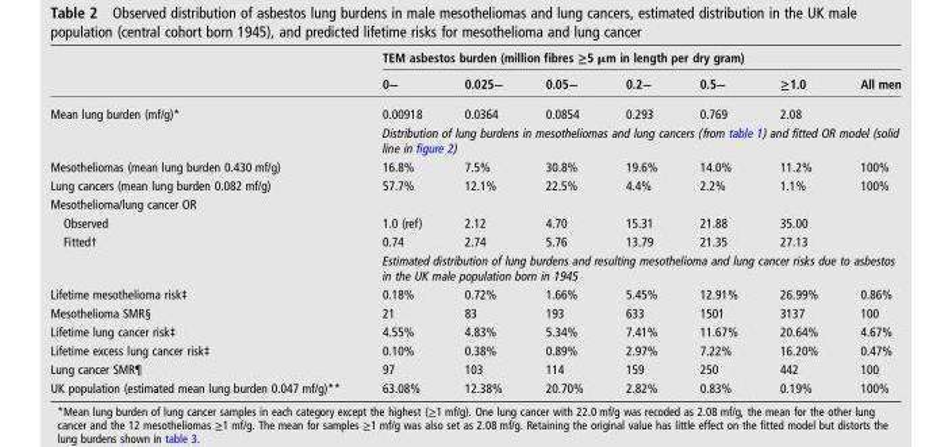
<table><thead><tr><td rowspan="2"></td><td colspan="7">TEM asbestos burden (million fibres ≥5 µm in length per dry gram)</td></tr><tr><td>0−</td><td>0.025−</td><td>0.05−</td><td>0.2−</td><td>0.5−</td><td>≥1.0</td><td>All men</td></tr></thead><tbody><tr><td rowspan="2">Mean lung burden (mf/g)*</td><td>0.00918</td><td>0.0364</td><td>0.0854</td><td>0.293</td><td>0.769</td><td>2.08</td><td></td></tr><tr><td colspan="7">Distribution of lung burdens in mesotheliomas and lung cancers (from table 1) and fitted OR model (solid line in figure 2)</td></tr><tr><td>Mesotheliomas (mean lung burden 0.430 mf/g)</td><td>16.8%</td><td>7.5%</td><td>30.8%</td><td>19.6%</td><td>14.0%</td><td>11.2%</td><td>100%</td></tr><tr><td>Lung cancers (mean lung burden 0.082 mf/g)</td><td>57.7%</td><td>12.1%</td><td>22.5%</td><td>4.4%</td><td>2.2%</td><td>1.1%</td><td>100%</td></tr><tr><td colspan="8">Mesothelioma/lung cancer OR</td></tr><tr><td>Observed</td><td>1.0 (ref)</td><td>2.12</td><td>4.70</td><td>15.31</td><td>21.88</td><td>35.00</td><td></td></tr><tr><td rowspan="2">Fitted†</td><td>0.74</td><td>2.74</td><td>5.76</td><td>13.79</td><td>21.35</td><td>27.13</td><td></td></tr><tr><td colspan="7">Estimated distribution of lung burdens and resulting mesothelioma and lung cancer risks due to asbestos in the UK male population born in 1945</td></tr><tr><td>Lifetime mesothelioma risk‡</td><td>0.18%</td><td>0.72%</td><td>1.66%</td><td>5.45%</td><td>12.91%</td><td>26.99%</td><td>0.86%</td></tr><tr><td>Mesothelioma SMR§</td><td>21</td><td>83</td><td>193</td><td>633</td><td>1501</td><td>3137</td><td>100</td></tr><tr><td>Lifetime lung cancer risk‡</td><td>4.55%</td><td>4.83%</td><td>5.34%</td><td>7.41%</td><td>11.67%</td><td>20.64%</td><td>4.67%</td></tr><tr><td>Lifetime excess lung cancer risk‡</td><td>0.10%</td><td>0.38%</td><td>0.89%</td><td>2.97%</td><td>7.22%</td><td>16.20%</td><td>0.47%</td></tr><tr><td>Lung cancer SMR¶</td><td>97</td><td>103</td><td>114</td><td>159</td><td>250</td><td>442</td><td>100</td></tr><tr><td>UK population (estimated mean lung burden 0.047 mf/g)**</td><td>63.08%</td><td>12.38%</td><td>20.70%</td><td>2.82%</td><td>0.83%</td><td>0.19%</td><td>100%</td></tr></tbody></table>